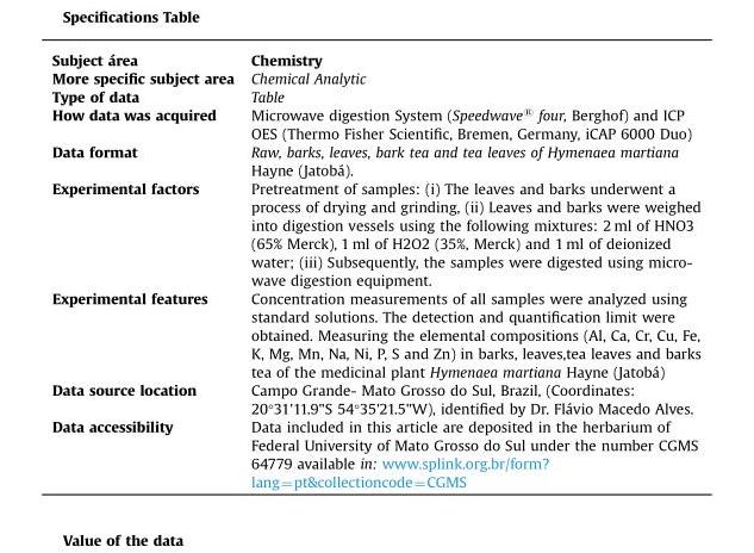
<table><tbody><tr><td>Subject área</td><td>Chemistry</td></tr><tr><td>More specific subject area</td><td>Chemical Analytic</td></tr><tr><td>Type of data</td><td>Table</td></tr><tr><td>How data was acquired</td><td>Microwave digestion System (Speedwave® four, Berghof) and ICP OES (Thermo Fisher Scientific, Bremen, Germany, iCAP 6000 Duo)</td></tr><tr><td>Data format</td><td>Raw, barks, leaves, bark tea and tea leaves of Hymenaea martiana Hayne (Jatobá).</td></tr><tr><td>Experimental factors</td><td>Pretreatment of samples: (i) The leaves and barks underwent a process of drying and grinding, (ii) Leaves and barks were weighed into digestion vessels using the following mixtures: 2 ml of HNO3 (65% Merck), 1 ml of H2O2 (35%, Merck) and 1 ml of deionized water; (iii) Subsequently, the samples were digested using micro- wave digestion equipment.</td></tr><tr><td>Experimental features</td><td>Concentration measurements of all samples were analyzed using standard solutions. The detection and quantification limit were obtained. Measuring the elemental compositions (Al, Ca, Cr, Cu, Fe, K, Mg, Mn, Na, Ni, P, S and Zn) in barks, leaves,tea leaves and barks tea of the medicinal plant Hymenaea martiana Hayne (Jatobá)</td></tr><tr><td>Data source location</td><td>Campo Grande- Mato Grosso do Sul, Brazil, (Coordinates: 20°31&#x27;11.9&quot;S 54°35&#x27;21.5&quot;W), identified by Dr. Flávio Macedo Alves.</td></tr><tr><td>Data accessibility</td><td>Data included in this article are deposited in the herbarium of Federal University of Mato Grosso do Sul under the number CGMS 64779 available in: www.splink.org.br/form? lang=pt&amp;collectioncode=CGMS</td></tr></tbody></table>